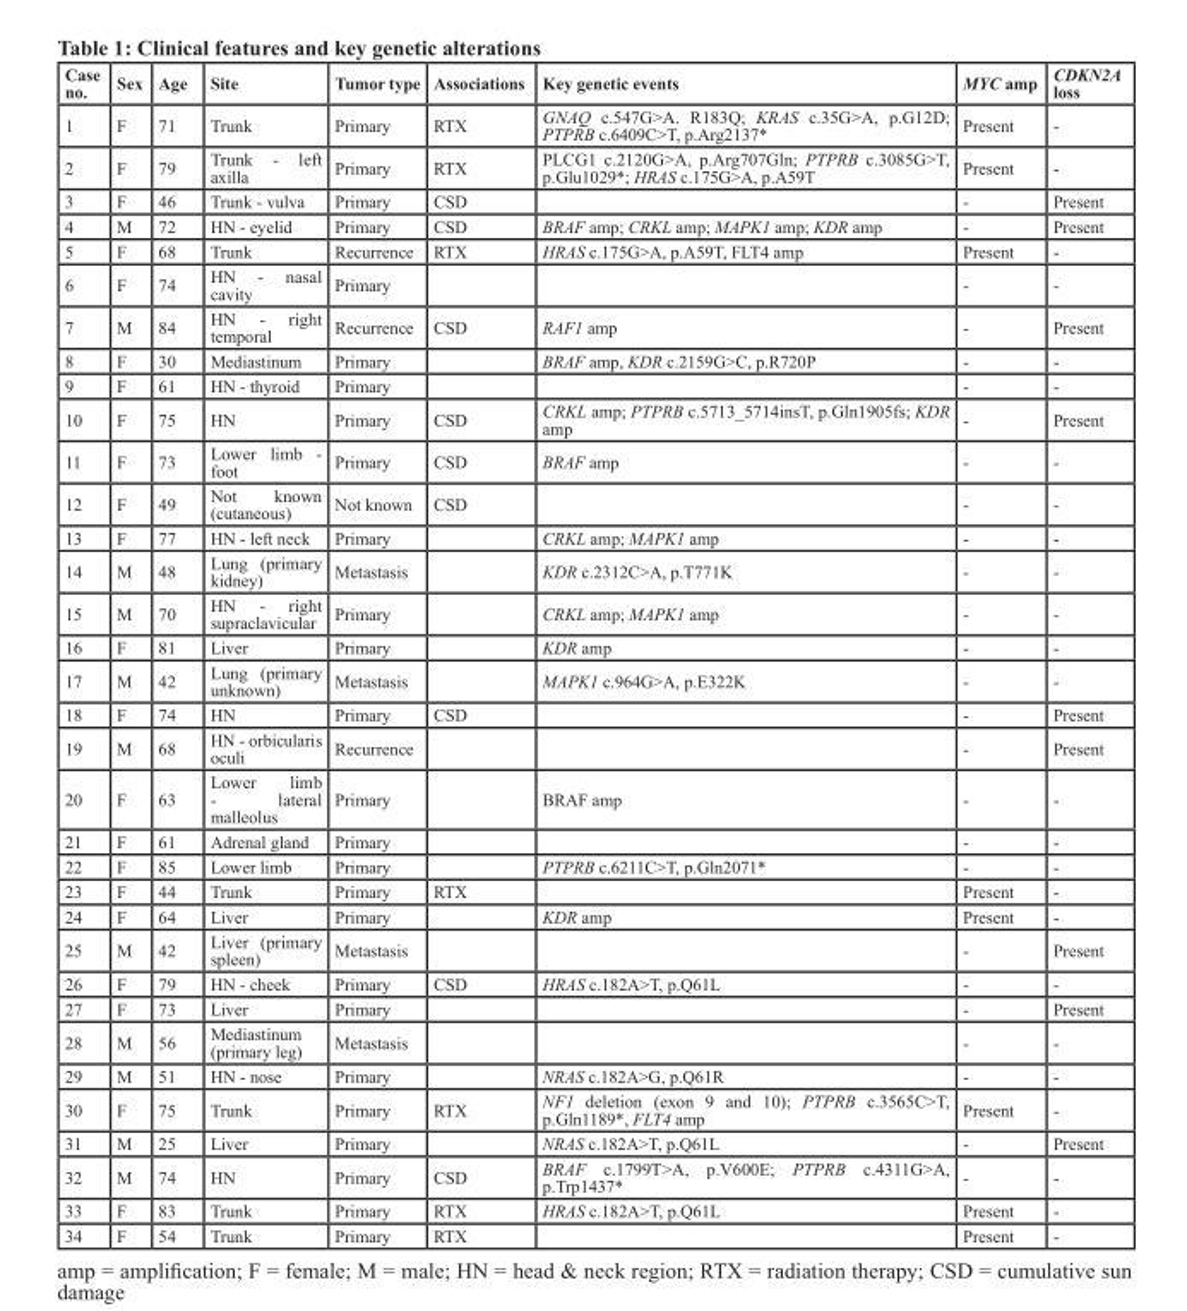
<table><thead><tr><td>Case no.</td><td>Sex</td><td>Age</td><td>Site</td><td>Tumor type</td><td>Associations</td><td>Key genetic events</td><td>MYC amp</td><td>CDKN2A loss</td></tr></thead><tbody><tr><td>1</td><td>F</td><td>71</td><td>Trunk</td><td>Primary</td><td>RTX</td><td>GNAQ c.547G&gt;A. R183Q; KRAS c.35G&gt;A, p.G12D; PTPRB c.6409C&gt;T, p.Arg2137*</td><td>Present</td><td>-</td></tr><tr><td>2</td><td>F</td><td>79</td><td>Trunk - left axilla</td><td>Primary</td><td>RTX</td><td>PLCG1 c.2120G&gt;A, p.Arg707Gln; PTPRB c.3085G&gt;T, p.Glu1029*; HRAS c.175G&gt;A, p.A59T</td><td>Present</td><td>-</td></tr><tr><td>3</td><td>F</td><td>46</td><td>Trunk - vulva</td><td>Primary</td><td>CSD</td><td></td><td>-</td><td>Present</td></tr><tr><td>4</td><td>M</td><td>72</td><td>HN - eyelid</td><td>Primary</td><td>CSD</td><td>BRAF amp; CRKL amp; MAPK1 amp; KDR amp</td><td>-</td><td>Present</td></tr><tr><td>5</td><td>F</td><td>68</td><td>Trunk</td><td>Recurrence</td><td>RTX</td><td>HRAS c.175G&gt;A, p.A59T, FLT4 amp</td><td>Present</td><td>-</td></tr><tr><td>6</td><td>F</td><td>74</td><td>HN - nasal cavity</td><td>Primary</td><td></td><td></td><td>-</td><td>-</td></tr><tr><td>7</td><td>M</td><td>84</td><td>HN - right temporal</td><td>Recurrence</td><td>CSD</td><td>RAF1 amp</td><td>-</td><td>Present</td></tr><tr><td>8</td><td>F</td><td>30</td><td>Mediastinum</td><td>Primary</td><td></td><td>BRAF amp, KDR c.2159G&gt;C, p.R720P</td><td>-</td><td>-</td></tr><tr><td>9</td><td>F</td><td>61</td><td>HN - thyroid</td><td>Primary</td><td></td><td></td><td>-</td><td>-</td></tr><tr><td>10</td><td>F</td><td>75</td><td>HN</td><td>Primary</td><td>CSD</td><td>CRKL amp; PTPRB c.5713_5714insT, p.Gln1905fs; KDR amp</td><td>-</td><td>Present</td></tr><tr><td>11</td><td>F</td><td>73</td><td>Lower limb - foot</td><td>Primary</td><td>CSD</td><td>BRAF amp</td><td>-</td><td>-</td></tr><tr><td>12</td><td>F</td><td>49</td><td>Not known (cutaneous)</td><td>Not known</td><td>CSD</td><td></td><td>-</td><td>-</td></tr><tr><td>13</td><td>F</td><td>77</td><td>HN - left neck</td><td>Primary</td><td></td><td>CRKL amp; MAPK1 amp</td><td>-</td><td>-</td></tr><tr><td>14</td><td>M</td><td>48</td><td>Lung (primary kidney)</td><td>Metastasis</td><td></td><td>KDR c.2312C&gt;A, p.T771K</td><td>-</td><td>-</td></tr><tr><td>15</td><td>M</td><td>70</td><td>HN - right supraclavicular</td><td>Primary</td><td></td><td>CRKL amp; MAPK1 amp</td><td>-</td><td>-</td></tr><tr><td>16</td><td>F</td><td>81</td><td>Liver</td><td>Primary</td><td></td><td>KDR amp</td><td>-</td><td>-</td></tr><tr><td>17</td><td>M</td><td>42</td><td>Lung (primary unknown)</td><td>Metastasis</td><td></td><td>MAPK1 c.964G&gt;A, p.E322K</td><td>-</td><td>-</td></tr><tr><td>18</td><td>F</td><td>74</td><td>HN</td><td>Primary</td><td>CSD</td><td></td><td>-</td><td>Present</td></tr><tr><td>19</td><td>M</td><td>68</td><td>HN - orbicularis oculi</td><td>Recurrence</td><td></td><td></td><td>-</td><td>Present</td></tr><tr><td>20</td><td>F</td><td>63</td><td>Lower limb - lateral malleolus</td><td>Primary</td><td></td><td>BRAF amp</td><td>-</td><td>-</td></tr><tr><td>21</td><td>F</td><td>61</td><td>Adrenal gland</td><td>Primary</td><td></td><td></td><td>-</td><td>-</td></tr><tr><td>22</td><td>F</td><td>85</td><td>Lower limb</td><td>Primary</td><td></td><td>PTPRB c.6211C&gt;T, p.Gln2071*</td><td>-</td><td>-</td></tr><tr><td>23</td><td>F</td><td>44</td><td>Trunk</td><td>Primary</td><td>RTX</td><td></td><td>Present</td><td>-</td></tr><tr><td>24</td><td>F</td><td>64</td><td>Liver</td><td>Primary</td><td></td><td>KDR amp</td><td>Present</td><td>-</td></tr><tr><td>25</td><td>M</td><td>42</td><td>Liver (primary spleen)</td><td>Metastasis</td><td></td><td></td><td>-</td><td>Present</td></tr><tr><td>26</td><td>F</td><td>79</td><td>HN - cheek</td><td>Primary</td><td>CSD</td><td>HRAS c.182A&gt;T, p.Q61L</td><td>-</td><td>-</td></tr><tr><td>27</td><td>F</td><td>73</td><td>Liver</td><td>Primary</td><td></td><td></td><td>-</td><td>Present</td></tr><tr><td>28</td><td>M</td><td>56</td><td>Mediastinum (primary leg)</td><td>Metastasis</td><td></td><td></td><td>-</td><td>-</td></tr><tr><td>29</td><td>M</td><td>51</td><td>HN - nose</td><td>Primary</td><td></td><td>NRAS c.182A&gt;G, p.Q61R</td><td>-</td><td>-</td></tr><tr><td>30</td><td>F</td><td>75</td><td>Trunk</td><td>Primary</td><td>RTX</td><td>NF1 deletion (exon 9 and 10); PTPRB c.3565C&gt;T, p.Gln1189*, FLT4 amp</td><td>Present</td><td>-</td></tr><tr><td>31</td><td>M</td><td>25</td><td>Liver</td><td>Primary</td><td></td><td>NRAS c.182A&gt;T, p.Q61L</td><td>-</td><td>Present</td></tr><tr><td>32</td><td>M</td><td>74</td><td>HN</td><td>Primary</td><td>CSD</td><td>BRAF c.1799T&gt;A, p.V600E; PTPRB c.4311G&gt;A, p.Trp1437*</td><td>-</td><td>-</td></tr><tr><td>33</td><td>F</td><td>83</td><td>Trunk</td><td>Primary</td><td>RTX</td><td>HRAS c.182A&gt;T, p.Q61L</td><td>Present</td><td>-</td></tr><tr><td>34</td><td>F</td><td>54</td><td>Trunk</td><td>Primary</td><td>RTX</td><td></td><td>Present</td><td>-</td></tr></tbody></table>